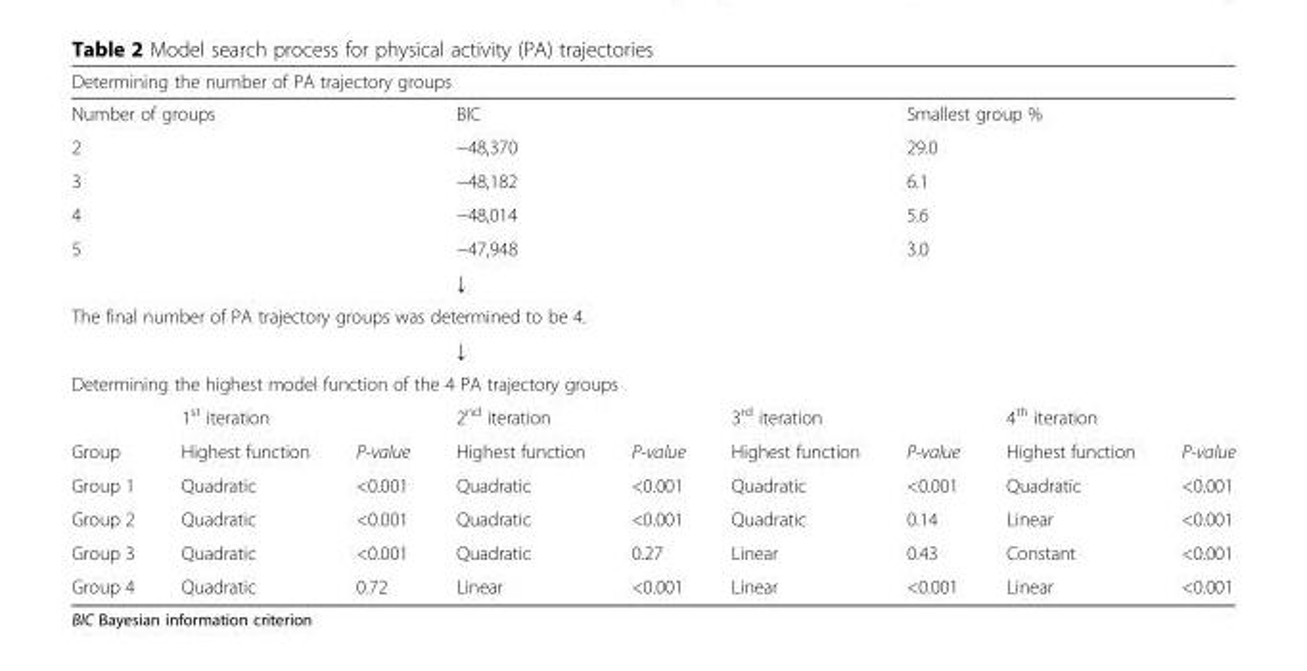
<table><thead><tr><td colspan="9">Determining the number of PA trajectory groups</td></tr></thead><tbody><tr><td colspan="3">Number of groups</td><td colspan="3">BIC</td><td colspan="3">Smallest group %</td></tr><tr><td colspan="3">2</td><td colspan="3">−48,370</td><td colspan="3">29.0</td></tr><tr><td colspan="3">3</td><td colspan="3">−48,182</td><td colspan="3">6.1</td></tr><tr><td colspan="3">4</td><td colspan="3">−48,014</td><td colspan="3">5.6</td></tr><tr><td rowspan="2" colspan="3">5</td><td colspan="3">−47,948</td><td colspan="3">3.0</td></tr><tr><td colspan="3">↓</td><td colspan="3"></td></tr><tr><td colspan="9">The final number of PA trajectory groups was determined to be 4.</td></tr><tr><td colspan="3"></td><td colspan="3">↓</td><td colspan="3"></td></tr><tr><td colspan="9">Determining the highest model function of the 4 PA trajectory groups</td></tr><tr><td></td><td colspan="2">1<sup>st</sup> iteration</td><td colspan="2">2<sup>nd</sup> iteration</td><td colspan="2">3<sup>rd</sup> iteration</td><td colspan="2">4<sup>th</sup> iteration</td></tr><tr><td>Group</td><td>Highest function</td><td>P-value</td><td>Highest function</td><td>P-value</td><td>Highest function</td><td>P-value</td><td>Highest function</td><td>P-value</td></tr><tr><td>Group 1</td><td>Quadratic</td><td>&lt;0.001</td><td>Quadratic</td><td>&lt;0.001</td><td>Quadratic</td><td>&lt;0.001</td><td>Quadratic</td><td>&lt;0.001</td></tr><tr><td>Group 2</td><td>Quadratic</td><td>&lt;0.001</td><td>Quadratic</td><td>&lt;0.001</td><td>Quadratic</td><td>0.14</td><td>Linear</td><td>&lt;0.001</td></tr><tr><td>Group 3</td><td>Quadratic</td><td>&lt;0.001</td><td>Quadratic</td><td>0.27</td><td>Linear</td><td>0.43</td><td>Constant</td><td>&lt;0.001</td></tr><tr><td>Group 4</td><td>Quadratic</td><td>0.72</td><td>Linear</td><td>&lt;0.001</td><td>Linear</td><td>&lt;0.001</td><td>Linear</td><td>&lt;0.001</td></tr></tbody></table>